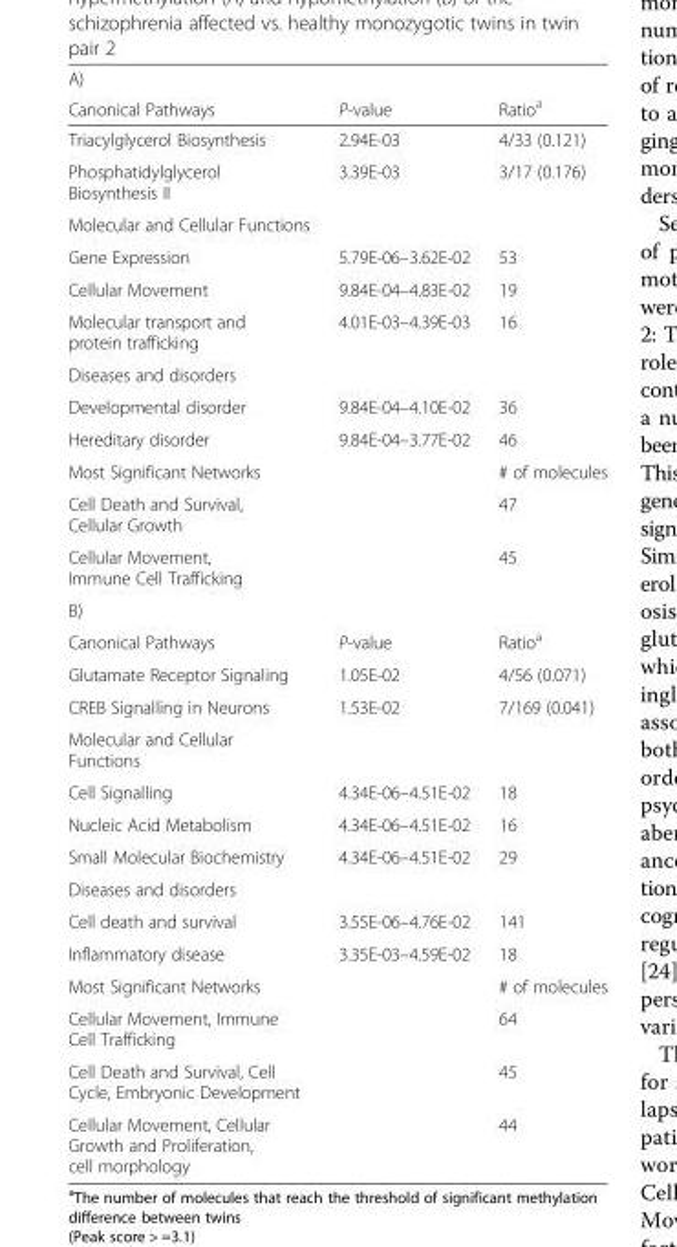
<table><thead><tr><td colspan="3">A)</td></tr><tr><td>Canonical Pathways</td><td>P-value</td><td>Ratio<sup>a</sup></td></tr></thead><tbody><tr><td>Triacylglycerol Biosynthesis</td><td>2.94E-03</td><td>4/33 (0.121)</td></tr><tr><td>Phosphatidylglycerol Biosynthesis II</td><td>3.39E-03</td><td>3/17 (0.176)</td></tr><tr><td colspan="3">Molecular and Cellular Functions</td></tr><tr><td>Gene Expression</td><td>5.79E-06–3.62E-02</td><td>53</td></tr><tr><td>Cellular Movement</td><td>9.84E-04–4.83E-02</td><td>19</td></tr><tr><td>Molecular transport and protein trafficking</td><td>4.01E-03–4.39E-03</td><td>16</td></tr><tr><td colspan="3">Diseases and disorders</td></tr><tr><td>Developmental disorder</td><td>9.84E-04–4.10E-02</td><td>36</td></tr><tr><td>Hereditary disorder</td><td>9.84E-04–3.77E-02</td><td>46</td></tr><tr><td>Most Significant Networks</td><td></td><td># of molecules</td></tr><tr><td>Cell Death and Survival, Cellular Growth</td><td></td><td>47</td></tr><tr><td>Cellular Movement, Immune Cell Trafficking</td><td></td><td>45</td></tr><tr><td colspan="3">B)</td></tr><tr><td>Canonical Pathways</td><td>P-value</td><td>Ratio<sup>a</sup></td></tr><tr><td>Glutamate Receptor Signaling</td><td>1.05E-02</td><td>4/56 (0.071)</td></tr><tr><td>CREB Signalling in Neurons</td><td>1.53E-02</td><td>7/169 (0.041)</td></tr><tr><td colspan="3">Molecular and Cellular Functions</td></tr><tr><td>Cell Signalling</td><td>4.34E-06–4.51E-02</td><td>18</td></tr><tr><td>Nucleic Acid Metabolism</td><td>4.34E-06–4.51E-02</td><td>16</td></tr><tr><td>Small Molecular Biochemistry</td><td>4.34E-06–4.51E-02</td><td>29</td></tr><tr><td colspan="3">Diseases and disorders</td></tr><tr><td>Cell death and survival</td><td>3.55E-06–4.76E-02</td><td>141</td></tr><tr><td>Inflammatory disease</td><td>3.35E-03–4.59E-02</td><td>18</td></tr><tr><td>Most Significant Networks</td><td></td><td># of molecules</td></tr><tr><td>Cellular Movement, Immune Cell Trafficking</td><td></td><td>64</td></tr><tr><td>Cell Death and Survival, Cell Cycle, Embryonic Development</td><td></td><td>45</td></tr><tr><td>Cellular Movement, Cellular Growth and Proliferation, cell morphology</td><td></td><td>44</td></tr></tbody></table>